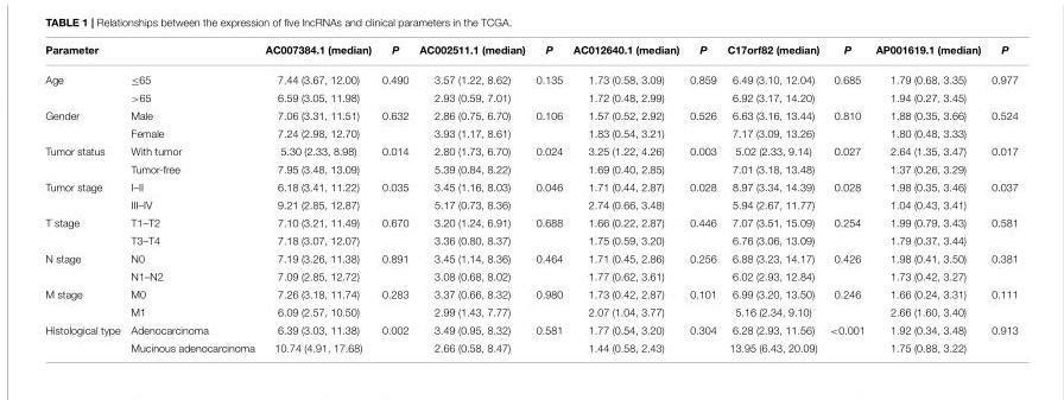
<table><thead><tr><td>Parameter</td><td></td><td>AC007384.1 (median)</td><td>P</td><td>AC002511.1 (median)</td><td>P</td><td>AC012640.1 (median)</td><td>P</td><td>C17orf82 (median)</td><td>P</td><td>AP001619.1 (median)</td><td>P</td></tr></thead><tbody><tr><td rowspan="2">Age</td><td>≤65</td><td>7.44 (3.67, 12.00)</td><td>0.490</td><td>3.57 (1.22, 8.62)</td><td>0.135</td><td>1.73 (0.58, 3.09)</td><td>0.859</td><td>6.49 (3.10, 12.04)</td><td>0.685</td><td>1.79 (0.68, 3.35)</td><td>0.977</td></tr><tr><td>&gt;65</td><td>6.59 (3.05, 11.98)</td><td></td><td>2.93 (0.59, 7.01)</td><td></td><td>1.72 (0.48, 2.99)</td><td></td><td>6.92 (3.17, 14.20)</td><td></td><td>1.94 (0.27, 3.45)</td><td></td></tr><tr><td rowspan="2">Gender</td><td>Male</td><td>7.06 (3.31, 11.51)</td><td>0.632</td><td>2.86 (0.75, 6.70)</td><td>0.106</td><td>1.57 (0.52, 2.92)</td><td>0.526</td><td>6.63 (3.16, 13.44)</td><td>0.810</td><td>1.88 (0.35, 3.66)</td><td>0.524</td></tr><tr><td>Female</td><td>7.24 (2.98, 12.70)</td><td></td><td>3.93 (1.17, 8.61)</td><td></td><td>1.83 (0.54, 3.21)</td><td></td><td>7.17 (3.09, 13.26)</td><td></td><td>1.80 (0.48, 3.33)</td><td></td></tr><tr><td rowspan="2">Tumor status</td><td>With tumor</td><td>5.30 (2.33, 8.98)</td><td>0.014</td><td>2.80 (1.73, 6.70)</td><td>0.024</td><td>3.25 (1.22, 4.26)</td><td>0.003</td><td>5.02 (2.33, 9.14)</td><td>0.027</td><td>2.64 (1.35, 3.47)</td><td>0.017</td></tr><tr><td>Tumor-free</td><td>7.95 (3.48, 13.09)</td><td></td><td>5.39 (0.84, 8.22)</td><td></td><td>1.69 (0.40, 2.85)</td><td></td><td>7.01 (3.18, 13.48)</td><td></td><td>1.37 (0.26, 3.29)</td><td></td></tr><tr><td rowspan="2">Tumor stage</td><td>I–II</td><td>6.18 (3.41, 11.22)</td><td>0.035</td><td>3.45 (1.16, 8.03)</td><td>0.046</td><td>1.71 (0.44, 2.87)</td><td>0.028</td><td>8.97 (3.34, 14.39)</td><td>0.028</td><td>1.98 (0.35, 3.46)</td><td>0.037</td></tr><tr><td>III–IV</td><td>9.21 (2.85, 12.87)</td><td></td><td>5.17 (0.73, 8.36)</td><td></td><td>2.74 (0.66, 3.48)</td><td></td><td>5.94 (2.67, 11.77)</td><td></td><td>1.04 (0.43, 3.41)</td><td></td></tr><tr><td rowspan="2">T stage</td><td>T1–T2</td><td>7.10 (3.21, 11.49)</td><td>0.670</td><td>3.20 (1.24, 6.91)</td><td>0.688</td><td>1.66 (0.22, 2.87)</td><td>0.446</td><td>7.07 (3.51, 15.09)</td><td>0.254</td><td>1.99 (0.79, 3.43)</td><td>0.581</td></tr><tr><td>T3–T4</td><td>7.18 (3.07, 12.07)</td><td></td><td>3.36 (0.80, 8.37)</td><td></td><td>1.75 (0.59, 3.20)</td><td></td><td>6.76 (3.06, 13.09)</td><td></td><td>1.79 (0.37, 3.44)</td><td></td></tr><tr><td rowspan="2">N stage</td><td>N0</td><td>7.19 (3.26, 11.38)</td><td>0.891</td><td>3.45 (1.14, 8.36)</td><td>0.464</td><td>1.71 (0.45, 2.86)</td><td>0.256</td><td>6.88 (3.23, 14.17)</td><td>0.426</td><td>1.98 (0.41, 3.50)</td><td>0.381</td></tr><tr><td>N1–N2</td><td>7.09 (2.85, 12.72)</td><td></td><td>3.08 (0.68, 8.02)</td><td></td><td>1.77 (0.62, 3.61)</td><td></td><td>6.02 (2.93, 12.84)</td><td></td><td>1.73 (0.42, 3.27)</td><td></td></tr><tr><td rowspan="2">M stage</td><td>M0</td><td>7.26 (3.18, 11.74)</td><td>0.283</td><td>3.37 (0.66, 8.32)</td><td>0.980</td><td>1.73 (0.42, 2.87)</td><td>0.101</td><td>6.99 (3.20, 13.50)</td><td>0.246</td><td>1.66 (0.24, 3.31)</td><td>0.111</td></tr><tr><td>M1</td><td>6.09 (2.57, 10.50)</td><td></td><td>2.99 (1.43, 7.77)</td><td></td><td>2.07 (1.04, 3.77)</td><td></td><td>5.16 (2.34, 9.10)</td><td></td><td>2.66 (1.60, 3.40)</td><td></td></tr><tr><td rowspan="2">Histological type</td><td>Adenocarcinoma</td><td>6.39 (3.03, 11.38)</td><td>0.002</td><td>3.49 (0.95, 8.32)</td><td>0.581</td><td>1.77 (0.54, 3.20)</td><td>0.304</td><td>6.28 (2.93, 11.56)</td><td>&lt;0.001</td><td>1.92 (0.34, 3.48)</td><td>0.913</td></tr><tr><td>Mucinous adenocarcinoma</td><td>10.74 (4.91, 17.68)</td><td></td><td>2.66 (0.58, 8.47)</td><td></td><td>1.44 (0.58, 2.43)</td><td></td><td>13.95 (6.43, 20.09)</td><td></td><td>1.75 (0.88, 3.22)</td><td></td></tr></tbody></table>